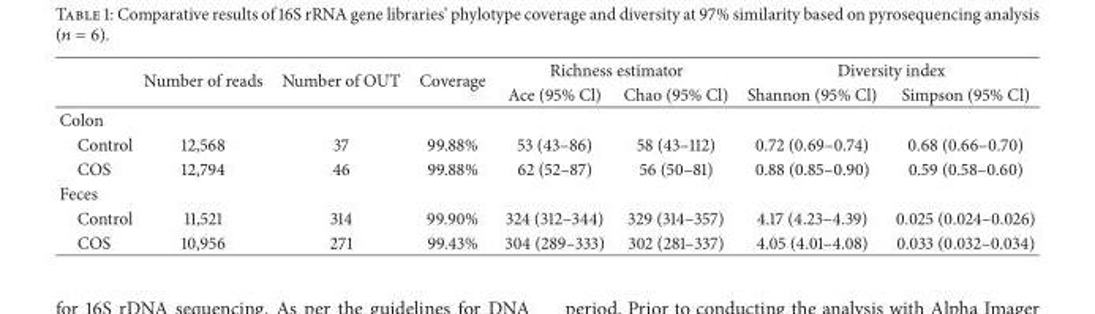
<table><thead><tr><td rowspan="2"></td><td rowspan="2">Number of reads</td><td rowspan="2">Number of OUT</td><td rowspan="2">Coverage</td><td colspan="2">Richness estimator</td><td colspan="2">Diversity index</td></tr><tr><td>Ace (95% Cl)</td><td>Chao (95% Cl)</td><td>Shannon (95% Cl)</td><td>Simpson (95% Cl)</td></tr></thead><tbody><tr><td colspan="8">Colon</td></tr><tr><td>Control</td><td>12,568</td><td>37</td><td>99.88%</td><td>53 (43–86)</td><td>58 (43–112)</td><td>0.72 (0.69–0.74)</td><td>0.68 (0.66–0.70)</td></tr><tr><td>COS</td><td>12,794</td><td>46</td><td>99.88%</td><td>62 (52–87)</td><td>56 (50–81)</td><td>0.88 (0.85–0.90)</td><td>0.59 (0.58–0.60)</td></tr><tr><td colspan="8">Feces</td></tr><tr><td>Control</td><td>11,521</td><td>314</td><td>99.90%</td><td>324 (312–344)</td><td>329 (314–357)</td><td>4.17 (4.23–4.39)</td><td>0.025 (0.024–0.026)</td></tr><tr><td>COS</td><td>10,956</td><td>271</td><td>99.43%</td><td>304 (289–333)</td><td>302 (281–337)</td><td>4.05 (4.01–4.08)</td><td>0.033 (0.032–0.034)</td></tr></tbody></table>